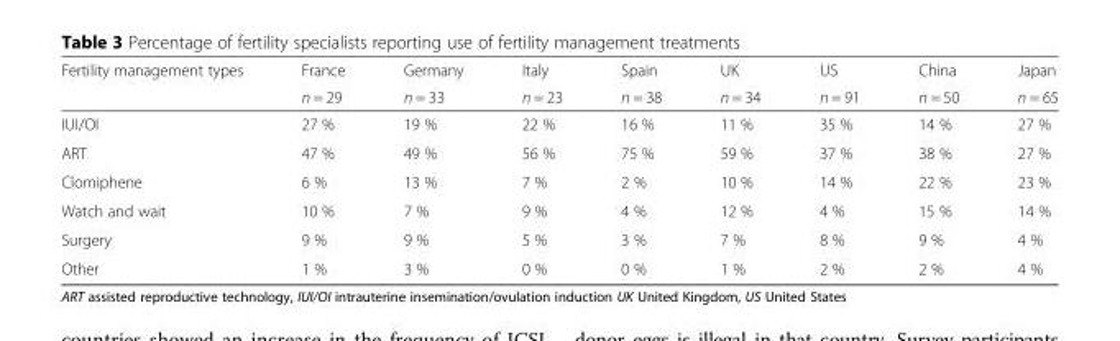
<table><thead><tr><td rowspan="2">Fertility management types</td><td rowspan="2">France n = 29</td><td rowspan="2">Germany n = 33</td><td rowspan="2">Italy n = 23</td><td rowspan="2">Spain n = 38</td><td rowspan="2">UK n = 34</td><td rowspan="2">US n = 91</td><td rowspan="2">China n = 50</td><td rowspan="2">Japan n = 65</td></tr><tr></tr></thead><tbody><tr><td>IUI/OI</td><td>27 %</td><td>19 %</td><td>22 %</td><td>16 %</td><td>11 %</td><td>35 %</td><td>14 %</td><td>27 %</td></tr><tr><td>ART</td><td>47 %</td><td>49 %</td><td>56 %</td><td>75 %</td><td>59 %</td><td>37 %</td><td>38 %</td><td>27 %</td></tr><tr><td>Clomiphene</td><td>6 %</td><td>13 %</td><td>7 %</td><td>2 %</td><td>10 %</td><td>14 %</td><td>22 %</td><td>23 %</td></tr><tr><td>Watch and wait</td><td>10 %</td><td>7 %</td><td>9 %</td><td>4 %</td><td>12 %</td><td>4 %</td><td>15 %</td><td>14 %</td></tr><tr><td>Surgery</td><td>9 %</td><td>9 %</td><td>5 %</td><td>3 %</td><td>7 %</td><td>8 %</td><td>9 %</td><td>4 %</td></tr><tr><td>Other</td><td>1 %</td><td>3 %</td><td>0 %</td><td>0 %</td><td>1 %</td><td>2 %</td><td>2 %</td><td>4 %</td></tr></tbody></table>